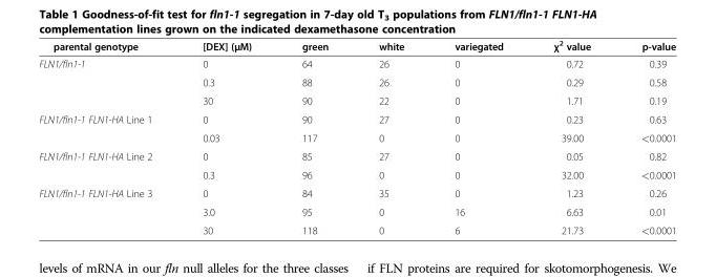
<table><thead><tr><td>parental genotype</td><td>[DEX] (μM)</td><td>green</td><td>white</td><td>variegated</td><td>χ<sup>2</sup> value</td><td>p-value</td></tr></thead><tbody><tr><td rowspan="3">FLN1/fln1-1</td><td>0</td><td>64</td><td>26</td><td>0</td><td>0.72</td><td>0.39</td></tr><tr><td>0.3</td><td>88</td><td>26</td><td>0</td><td>0.29</td><td>0.58</td></tr><tr><td>30</td><td>90</td><td>22</td><td>0</td><td>1.71</td><td>0.19</td></tr><tr><td rowspan="2">FLN1/fln1-1 FLN1-HA Line 1</td><td>0</td><td>90</td><td>27</td><td>0</td><td>0.23</td><td>0.63</td></tr><tr><td>0.03</td><td>117</td><td>0</td><td>0</td><td>39.00</td><td>&lt;0.0001</td></tr><tr><td rowspan="2">FLN1/fln1-1 FLN1-HA Line 2</td><td>0</td><td>85</td><td>27</td><td>0</td><td>0.05</td><td>0.82</td></tr><tr><td>0.3</td><td>96</td><td>0</td><td>0</td><td>32.00</td><td>&lt;0.0001</td></tr><tr><td rowspan="3">FLN1/fln1-1 FLN1-HA Line 3</td><td>0</td><td>84</td><td>35</td><td>0</td><td>1.23</td><td>0.26</td></tr><tr><td>3.0</td><td>95</td><td>0</td><td>16</td><td>6.63</td><td>0.01</td></tr><tr><td>30</td><td>118</td><td>0</td><td>6</td><td>21.73</td><td>&lt;0.0001</td></tr></tbody></table>